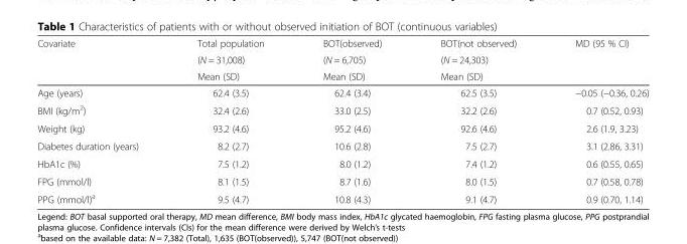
<table><thead><tr><td rowspan="3">Covariate</td><td rowspan="3">Total population (N = 31,008) Mean (SD)</td><td rowspan="3">BOT(observed) (N = 6,705) Mean (SD)</td><td rowspan="3">BOT(not observed) (N = 24,303) Mean (SD)</td><td rowspan="3">MD (95 % CI)</td></tr><tr></tr><tr></tr></thead><tbody><tr><td>Age (years)</td><td>62.4 (3.5)</td><td>62.4 (3.4)</td><td>62.5 (3.5)</td><td>−0.05 (−0.36, 0.26)</td></tr><tr><td>BMI (kg/m<sup>2</sup>)</td><td>32.4 (2.6)</td><td>33.0 (2.5)</td><td>32.2 (2.6)</td><td>0.7 (0.52, 0.93)</td></tr><tr><td>Weight (kg)</td><td>93.2 (4.6)</td><td>95.2 (4.6)</td><td>92.6 (4.6)</td><td>2.6 (1.9, 3.23)</td></tr><tr><td>Diabetes duration (years)</td><td>8.2 (2.7)</td><td>10.6 (2.8)</td><td>7.5 (2.7)</td><td>3.1 (2.86, 3.31)</td></tr><tr><td>HbA1c (%)</td><td>7.5 (1.2)</td><td>8.0 (1.2)</td><td>7.4 (1.2)</td><td>0.6 (0.55, 0.65)</td></tr><tr><td>FPG (mmol/l)</td><td>8.1 (1.5)</td><td>8.7 (1.6)</td><td>8.0 (1.5)</td><td>0.7 (0.58, 0.78)</td></tr><tr><td>PPG (mmol/l)<sup>a</sup></td><td>9.5 (4.7)</td><td>10.8 (4.3)</td><td>9.1 (4.7)</td><td>0.9 (0.70, 1.14)</td></tr></tbody></table>